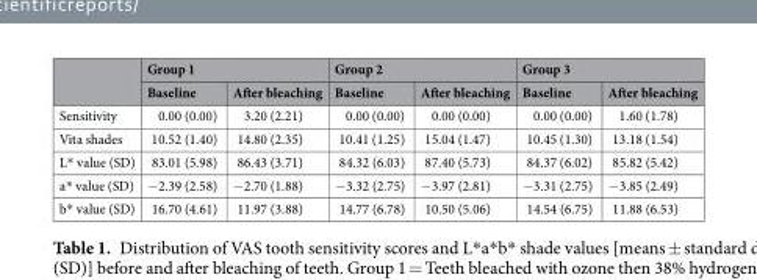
<table><thead><tr><td rowspan="2"></td><td colspan="2">Group 1</td><td colspan="2">Group 2</td><td colspan="2">Group 3</td></tr><tr><td>Baseline</td><td>After bleaching</td><td>Baseline</td><td>After bleaching</td><td>Baseline</td><td>After bleaching</td></tr></thead><tbody><tr><td>Sensitivity</td><td>0.00 (0.00)</td><td>3.20 (2.21)</td><td>0.00 (0.00)</td><td>0.00 (0.00)</td><td>0.00 (0.00)</td><td>1.60 (1.78)</td></tr><tr><td>Vita shades</td><td>10.52 (1.40)</td><td>14.80 (2.35)</td><td>10.41 (1.25)</td><td>15.04 (1.47)</td><td>10.45 (1.30)</td><td>13.18 (1.54)</td></tr><tr><td>L* value (SD)</td><td>83.01 (5.98)</td><td>86.43 (3.71)</td><td>84.32 (6.03)</td><td>87.40 (5.73)</td><td>84.37 (6.02)</td><td>85.82 (5.42)</td></tr><tr><td>a* value (SD)</td><td>−2.39 (2.58)</td><td>−2.70 (1.88)</td><td>−3.32 (2.75)</td><td>−3.97 (2.81)</td><td>−3.31 (2.75)</td><td>−3.85 (2.49)</td></tr><tr><td>b* value (SD)</td><td>16.70 (4.61)</td><td>11.97 (3.88)</td><td>14.77 (6.78)</td><td>10.50 (5.06)</td><td>14.54 (6.75)</td><td>11.88 (6.53)</td></tr></tbody></table>